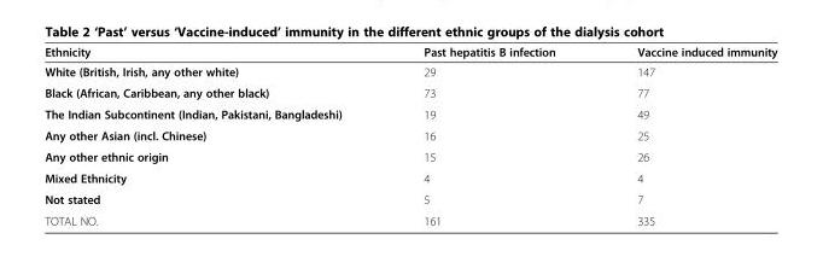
<table><thead><tr><td>Ethnicity</td><td>Past hepatitis B infection</td><td>Vaccine induced immunity</td></tr></thead><tbody><tr><td>White (British, Irish, any other white)</td><td>29</td><td>147</td></tr><tr><td>Black (African, Caribbean, any other black)</td><td>73</td><td>77</td></tr><tr><td>The Indian Subcontinent (Indian, Pakistani, Bangladeshi)</td><td>19</td><td>49</td></tr><tr><td>Any other Asian (incl. Chinese)</td><td>16</td><td>25</td></tr><tr><td>Any other ethnic origin</td><td>15</td><td>26</td></tr><tr><td>Mixed Ethnicity</td><td>4</td><td>4</td></tr><tr><td>Not stated</td><td>5</td><td>7</td></tr><tr><td>TOTAL NO.</td><td>161</td><td>335</td></tr></tbody></table>